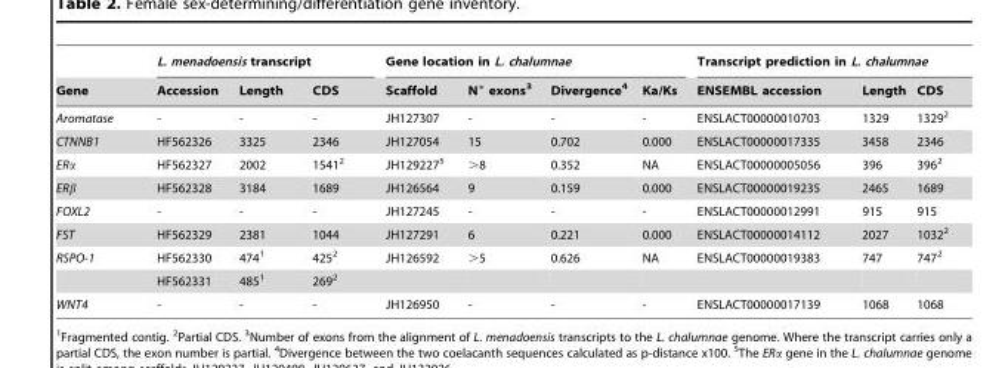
<table><thead><tr><td rowspan="2">Gene</td><td colspan="3">L. menadoensis transcript</td><td colspan="4">Gene location in L. chalumnae</td><td colspan="3">Transcript prediction in L. chalumnae</td></tr><tr><td>Accession</td><td>Length</td><td>CDS</td><td>Scaffold</td><td>N° exons<sup>3</sup></td><td>Divergence<sup>4</sup></td><td>Ka/Ks</td><td>ENSEMBL accession</td><td>Length</td><td>CDS</td></tr></thead><tbody><tr><td>Aromatase</td><td>-</td><td>-</td><td>-</td><td>JH127307</td><td>-</td><td>-</td><td>-</td><td>ENSLACT00000010703</td><td>1329</td><td>1329<sup>2</sup></td></tr><tr><td>CTNNB1</td><td>HF562326</td><td>3325</td><td>2346</td><td>JH127054</td><td>15</td><td>0.702</td><td>0.000</td><td>ENSLACT00000017335</td><td>3458</td><td>2346</td></tr><tr><td>ERα</td><td>HF562327</td><td>2002</td><td>1541<sup>2</sup></td><td>JH129227<sup>5</sup></td><td>&gt;8</td><td>0.352</td><td>NA</td><td>ENSLACT00000005056</td><td>396</td><td>396<sup>2</sup></td></tr><tr><td>ERβ</td><td>HF562328</td><td>3184</td><td>1689</td><td>JH126564</td><td>9</td><td>0.159</td><td>0.000</td><td>ENSLACT00000019235</td><td>2465</td><td>1689</td></tr><tr><td>FOXL2</td><td>-</td><td>-</td><td>-</td><td>JH127245</td><td>-</td><td>-</td><td>-</td><td>ENSLACT00000012991</td><td>915</td><td>915</td></tr><tr><td>FST</td><td>HF562329</td><td>2381</td><td>1044</td><td>JH127291</td><td>6</td><td>0.221</td><td>0.000</td><td>ENSLACT00000014112</td><td>2027</td><td>1032<sup>2</sup></td></tr><tr><td rowspan="2">RSPO-1</td><td>HF562330</td><td>474<sup>1</sup></td><td>425<sup>2</sup></td><td>JH126592</td><td>&gt;5</td><td>0.626</td><td>NA</td><td>ENSLACT00000019383</td><td>747</td><td>747<sup>2</sup></td></tr><tr><td>HF562331</td><td>485<sup>1</sup></td><td>269<sup>2</sup></td><td></td><td></td><td></td><td></td><td></td><td></td><td></td></tr><tr><td>WNT4</td><td>-</td><td>-</td><td>-</td><td>JH126950</td><td>-</td><td>-</td><td>-</td><td>ENSLACT00000017139</td><td>1068</td><td>1068</td></tr></tbody></table>